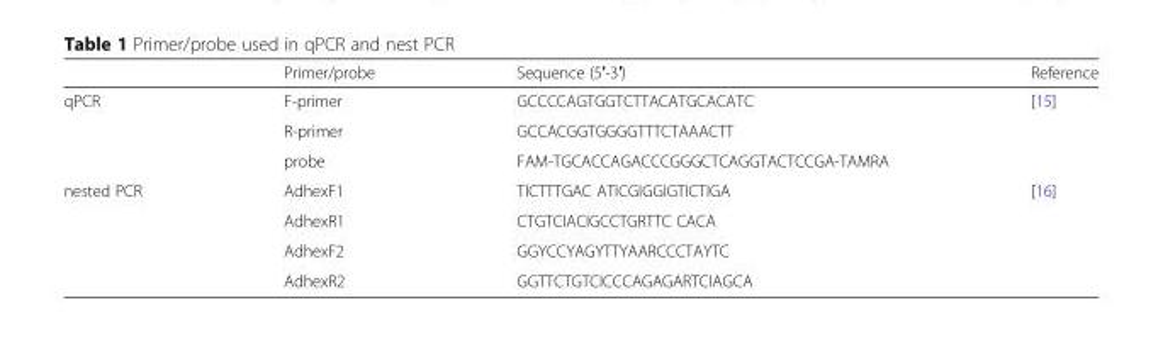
<table><thead><tr><td></td><td>Primer/probe</td><td>Sequence (5′-3′)</td><td>Reference</td></tr></thead><tbody><tr><td rowspan="3">qPCR</td><td>F-primer</td><td>GCCCCAGTGGTCTTACATGCACATC</td><td rowspan="3">[15]</td></tr><tr><td>R-primer</td><td>GCCACGGTGGGGTTTCTAAACTT</td></tr><tr><td>probe</td><td>FAM-TGCACCAGACCCGGGCTCAGGTACTCCGA-TAMRA</td></tr><tr><td rowspan="4">nested PCR</td><td>AdhexF1</td><td>TICTTTGAC ATICGIGGIGTICTIGA</td><td rowspan="2">[16]</td></tr><tr><td>AdhexR1</td><td>CTGTCIACIGCCTGRTTC CACA</td></tr><tr><td>AdhexF2</td><td>GGYCCYAGYTTYAARCCCTAYTC</td><td rowspan="2"></td></tr><tr><td>AdhexR2</td><td>GGTTCTGTCICCCAGAGARTCIAGCA</td></tr></tbody></table>